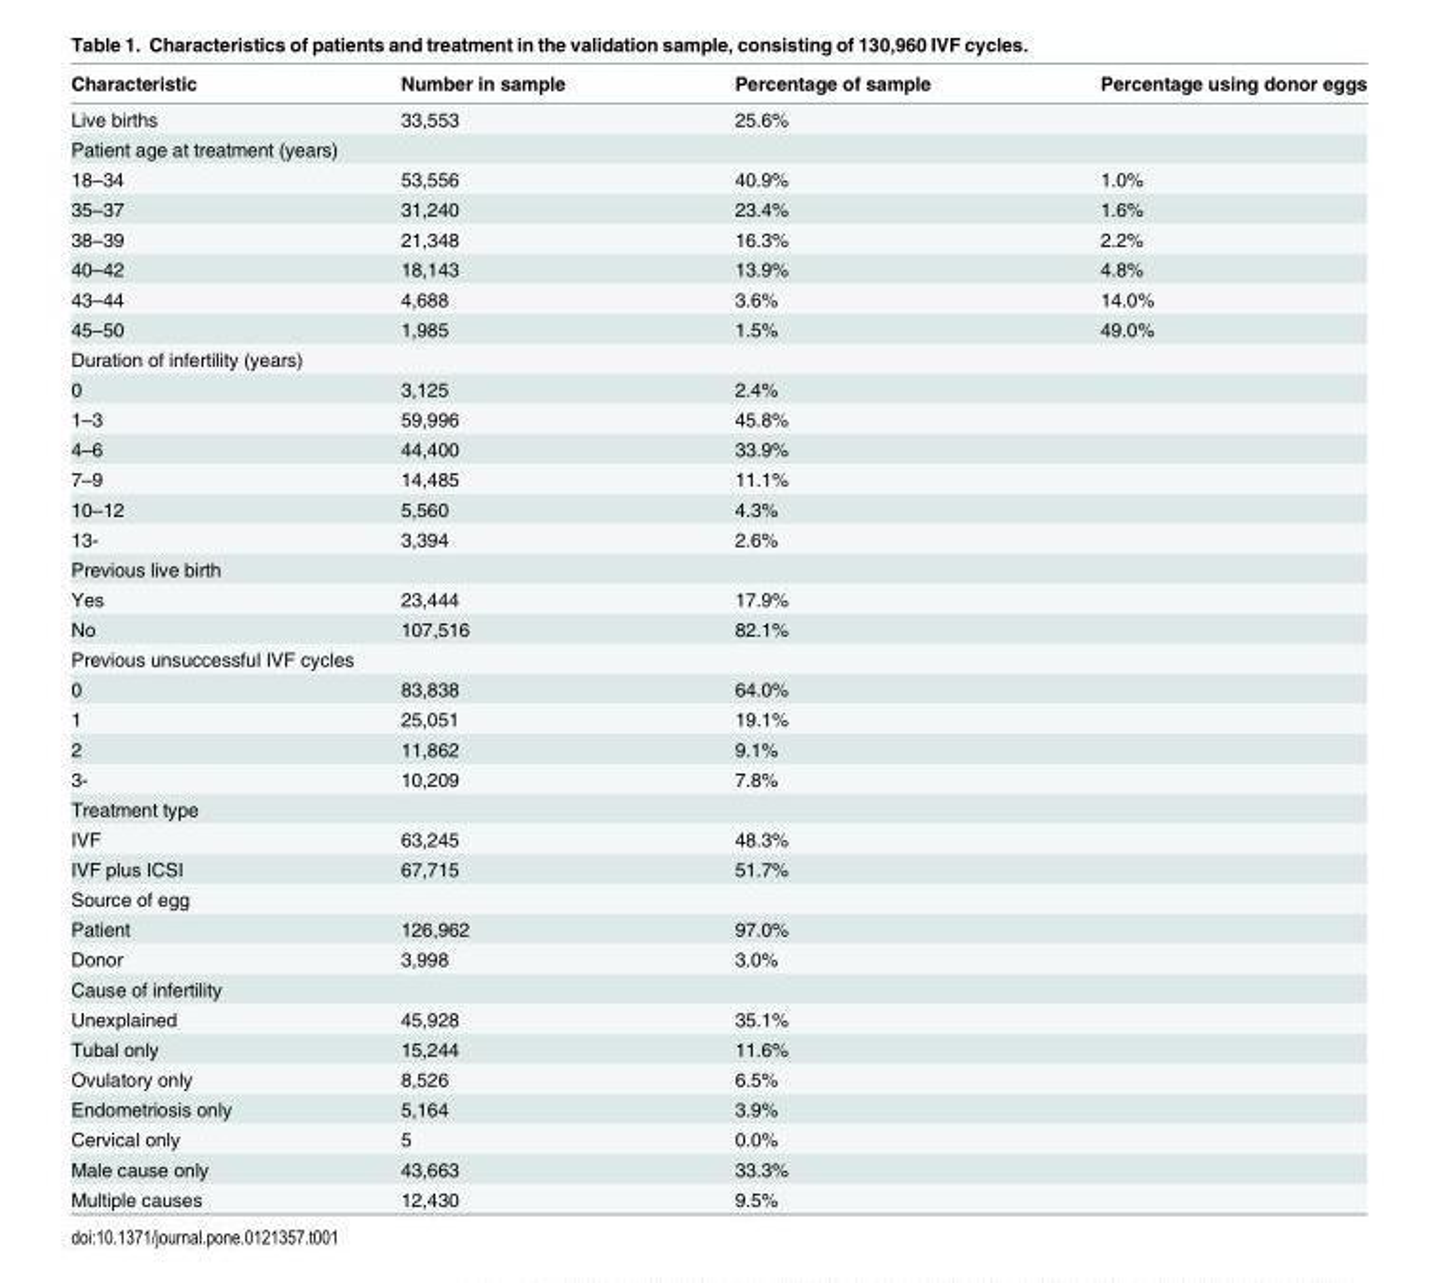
<table><thead><tr><td>Characteristic</td><td>Number in sample</td><td>Percentage of sample</td><td>Percentage using donor eggs</td></tr></thead><tbody><tr><td>Live births</td><td>33,553</td><td>25.6%</td><td></td></tr><tr><td colspan="4">Patient age at treatment (years)</td></tr><tr><td>18–34</td><td>53,556</td><td>40.9%</td><td>1.0%</td></tr><tr><td>35–37</td><td>31,240</td><td>23.4%</td><td>1.6%</td></tr><tr><td>38–39</td><td>21,348</td><td>16.3%</td><td>2.2%</td></tr><tr><td>40–42</td><td>18,143</td><td>13.9%</td><td>4.8%</td></tr><tr><td>43–44</td><td>4,688</td><td>3.6%</td><td>14.0%</td></tr><tr><td>45–50</td><td>1,985</td><td>1.5%</td><td>49.0%</td></tr><tr><td colspan="4">Duration of infertility (years)</td></tr><tr><td>0</td><td>3,125</td><td>2.4%</td><td></td></tr><tr><td>1–3</td><td>59,996</td><td>45.8%</td><td></td></tr><tr><td>4–6</td><td>44,400</td><td>33.9%</td><td></td></tr><tr><td>7–9</td><td>14,485</td><td>11.1%</td><td></td></tr><tr><td>10–12</td><td>5,560</td><td>4.3%</td><td></td></tr><tr><td>13-</td><td>3,394</td><td>2.6%</td><td></td></tr><tr><td colspan="4">Previous live birth</td></tr><tr><td>Yes</td><td>23,444</td><td>17.9%</td><td></td></tr><tr><td>No</td><td>107,516</td><td>82.1%</td><td></td></tr><tr><td colspan="4">Previous unsuccessful IVF cycles</td></tr><tr><td>0</td><td>83,838</td><td>64.0%</td><td></td></tr><tr><td>1</td><td>25,051</td><td>19.1%</td><td></td></tr><tr><td>2</td><td>11,862</td><td>9.1%</td><td></td></tr><tr><td>3-</td><td>10,209</td><td>7.8%</td><td></td></tr><tr><td colspan="4">Treatment type</td></tr><tr><td>IVF</td><td>63,245</td><td>48.3%</td><td></td></tr><tr><td>IVF plus ICSI</td><td>67,715</td><td>51.7%</td><td></td></tr><tr><td colspan="4">Source of egg</td></tr><tr><td>Patient</td><td>126,962</td><td>97.0%</td><td></td></tr><tr><td>Donor</td><td>3,998</td><td>3.0%</td><td></td></tr><tr><td colspan="4">Cause of infertility</td></tr><tr><td>Unexplained</td><td>45,928</td><td>35.1%</td><td></td></tr><tr><td>Tubal only</td><td>15,244</td><td>11.6%</td><td></td></tr><tr><td>Ovulatory only</td><td>8,526</td><td>6.5%</td><td></td></tr><tr><td>Endometriosis only</td><td>5,164</td><td>3.9%</td><td></td></tr><tr><td>Cervical only</td><td>5</td><td>0.0%</td><td></td></tr><tr><td>Male cause only</td><td>43,663</td><td>33.3%</td><td></td></tr><tr><td>Multiple causes</td><td>12,430</td><td>9.5%</td><td></td></tr></tbody></table>